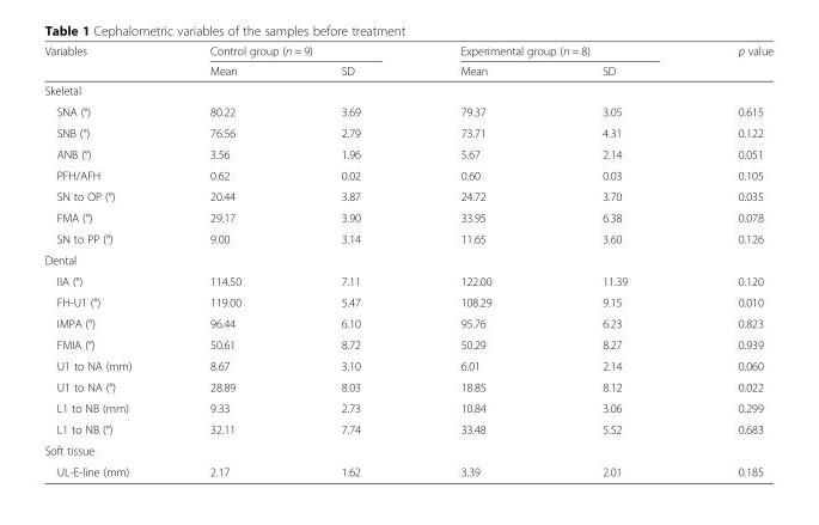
<table><thead><tr><td rowspan="2">Variables</td><td colspan="2">Control group (n = 9)</td><td colspan="2">Experimental group (n = 8)</td><td rowspan="2">p value</td></tr><tr><td>Mean</td><td>SD</td><td>Mean</td><td>SD</td></tr></thead><tbody><tr><td colspan="6">Skeletal</td></tr><tr><td>SNA (°)</td><td>80.22</td><td>3.69</td><td>79.37</td><td>3.05</td><td>0.615</td></tr><tr><td>SNB (°)</td><td>76.56</td><td>2.79</td><td>73.71</td><td>4.31</td><td>0.122</td></tr><tr><td>ANB (°)</td><td>3.56</td><td>1.96</td><td>5.67</td><td>2.14</td><td>0.051</td></tr><tr><td>PFH/AFH</td><td>0.62</td><td>0.02</td><td>0.60</td><td>0.03</td><td>0.105</td></tr><tr><td>SN to OP (°)</td><td>20.44</td><td>3.87</td><td>24.72</td><td>3.70</td><td>0.035</td></tr><tr><td>FMA (°)</td><td>29.17</td><td>3.90</td><td>33.95</td><td>6.38</td><td>0.078</td></tr><tr><td>SN to PP (°)</td><td>9.00</td><td>3.14</td><td>11.65</td><td>3.60</td><td>0.126</td></tr><tr><td colspan="6">Dental</td></tr><tr><td>IIA (°)</td><td>114.50</td><td>7.11</td><td>122.00</td><td>11.39</td><td>0.120</td></tr><tr><td>FH-U1 (°)</td><td>119.00</td><td>5.47</td><td>108.29</td><td>9.15</td><td>0.010</td></tr><tr><td>IMPA (°)</td><td>96.44</td><td>6.10</td><td>95.76</td><td>6.23</td><td>0.823</td></tr><tr><td>FMIA (°)</td><td>50.61</td><td>8.72</td><td>50.29</td><td>8.27</td><td>0.939</td></tr><tr><td>U1 to NA (mm)</td><td>8.67</td><td>3.10</td><td>6.01</td><td>2.14</td><td>0.060</td></tr><tr><td>U1 to NA (°)</td><td>28.89</td><td>8.03</td><td>18.85</td><td>8.12</td><td>0.022</td></tr><tr><td>L1 to NB (mm)</td><td>9.33</td><td>2.73</td><td>10.84</td><td>3.06</td><td>0.299</td></tr><tr><td>L1 to NB (°)</td><td>32.11</td><td>7.74</td><td>33.48</td><td>5.52</td><td>0.683</td></tr><tr><td colspan="6">Soft tissue</td></tr><tr><td>UL-E-line (mm)</td><td>2.17</td><td>1.62</td><td>3.39</td><td>2.01</td><td>0.185</td></tr></tbody></table>